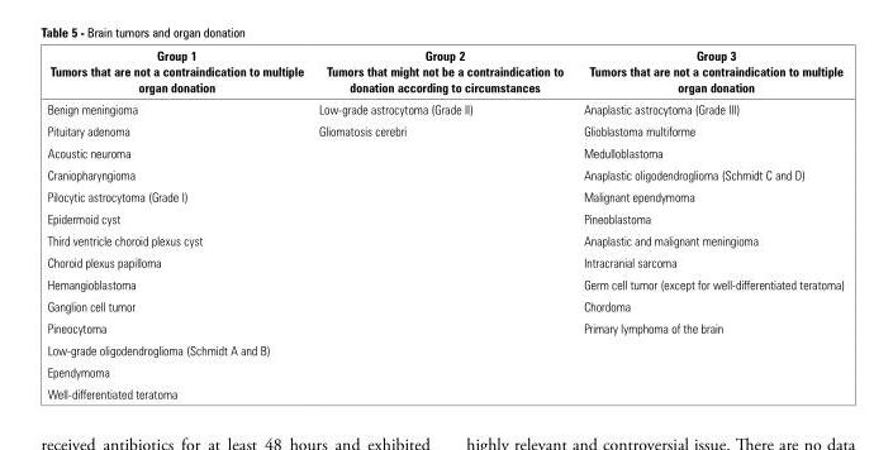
<table><thead><tr><td>Group 1 Tumors that are not a contraindication to multiple organ donation</td><td>Group 2 Tumors that might not be a contraindication to donation according to circumstances</td><td>Group 3 Tumors that are not a contraindication to multiple organ donation</td></tr></thead><tbody><tr><td>Benign meningioma</td><td>Low-grade astrocytoma (Grade II)</td><td>Anaplastic astrocytoma (Grade III)</td></tr><tr><td>Pituitary adenoma</td><td>Gliomatosis cerebri</td><td>Glioblastoma multiforme</td></tr><tr><td>Acoustic neuroma</td><td></td><td>Medulloblastoma</td></tr><tr><td>Craniopharyngioma</td><td></td><td>Anaplastic oligodendroglioma (Schmidt C and D)</td></tr><tr><td>Pilocytic astrocytoma (Grade I)</td><td></td><td>Malignant ependymoma</td></tr><tr><td>Epidermoid cyst</td><td></td><td>Pineoblastoma</td></tr><tr><td>Third ventricle choroid plexus cyst</td><td></td><td>Anaplastic and malignant meningioma</td></tr><tr><td>Choroid plexus papilloma</td><td></td><td>Intracranial sarcoma</td></tr><tr><td>Hemangioblastoma</td><td></td><td>Germ cell tumor (except for well-differentiated teratoma)</td></tr><tr><td>Ganglion cell tumor</td><td></td><td>Chordoma</td></tr><tr><td>Pineocytoma</td><td></td><td>Primary lymphoma of the brain</td></tr><tr><td colspan="3">Low-grade oligodendroglioma (Schmidt A and B)</td></tr><tr><td colspan="3">Ependymoma</td></tr><tr><td>Well-differentiated teratoma</td><td></td><td></td></tr></tbody></table>